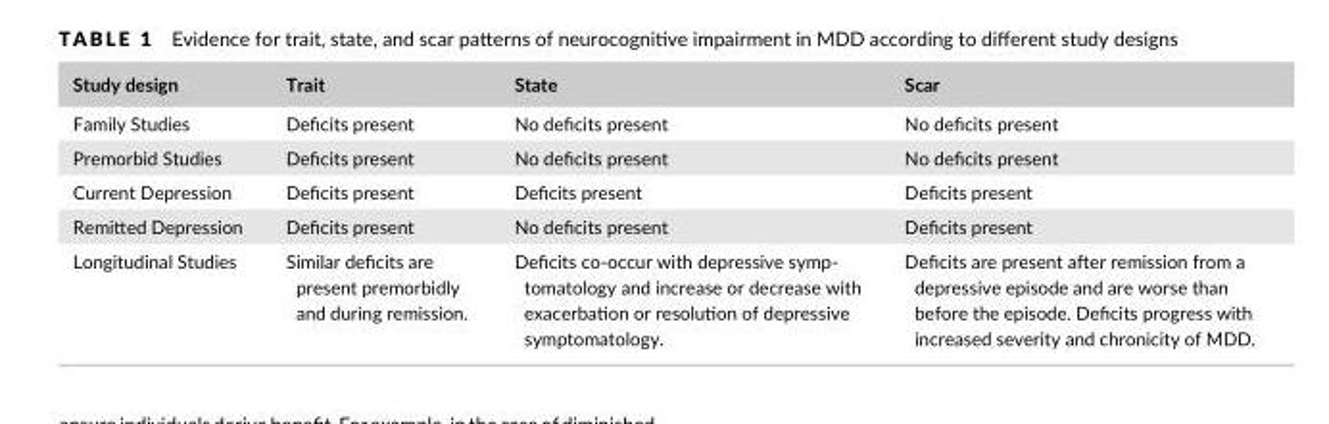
<table><thead><tr><td>Study design</td><td>Trait</td><td>State</td><td>Scar</td></tr></thead><tbody><tr><td>Family Studies</td><td>Deficits present</td><td>No deficits present</td><td>No deficits present</td></tr><tr><td>Premorbid Studies</td><td>Deficits present</td><td>No deficits present</td><td>No deficits present</td></tr><tr><td>Current Depression</td><td>Deficits present</td><td>Deficits present</td><td>Deficits present</td></tr><tr><td>Remitted Depression</td><td>Deficits present</td><td>No deficits present</td><td>Deficits present</td></tr><tr><td>Longitudinal Studies</td><td>Similar deficits are present premorbidly and during remission.</td><td>Deficits co- occur with depressive symp- tomatology and increase or decrease with exacerbation or resolution of depressive symptomatology.</td><td>Deficits are present after remission from a depressive episode and are worse than before the episode. Deficits progress with increased severity and chronicity of MDD.</td></tr></tbody></table>